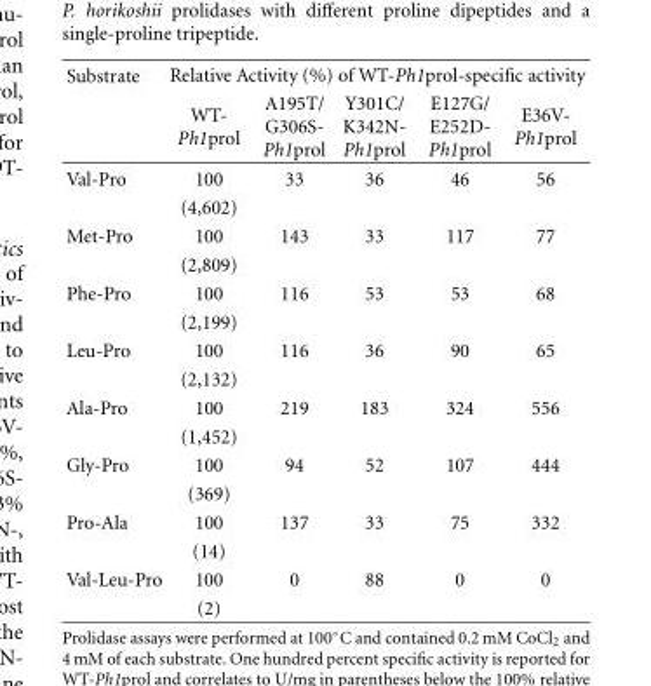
<table><thead><tr><td rowspan="2">Substrate</td><td colspan="5">Relative Activity (%) of WT-Ph1prol-specific activity</td></tr><tr><td>WT- Ph1prol</td><td>A195T/ G306S- Ph1prol</td><td>Y301C/ K342N- Ph1prol</td><td>E127G/ E252D- Ph1prol</td><td>E36V- Ph1prol</td></tr></thead><tbody><tr><td rowspan="2">Val-Pro</td><td>100</td><td>33</td><td>36</td><td>46</td><td>56</td></tr><tr><td>(4,602)</td><td></td><td></td><td></td><td></td></tr><tr><td rowspan="2">Met-Pro</td><td>100</td><td>143</td><td>33</td><td>117</td><td>77</td></tr><tr><td>(2,809)</td><td></td><td></td><td></td><td></td></tr><tr><td rowspan="2">Phe-Pro</td><td>100</td><td>116</td><td>53</td><td>53</td><td>68</td></tr><tr><td>(2,199)</td><td></td><td></td><td></td><td></td></tr><tr><td rowspan="2">Leu-Pro</td><td>100</td><td>116</td><td>36</td><td>90</td><td>65</td></tr><tr><td>(2,132)</td><td></td><td></td><td></td><td></td></tr><tr><td rowspan="2">Ala-Pro</td><td>100</td><td>219</td><td>183</td><td>324</td><td>556</td></tr><tr><td>(1,452)</td><td></td><td></td><td></td><td></td></tr><tr><td rowspan="2">Gly-Pro</td><td>100</td><td>94</td><td>52</td><td>107</td><td>444</td></tr><tr><td>(369)</td><td></td><td></td><td></td><td></td></tr><tr><td rowspan="2">Pro-Ala</td><td>100</td><td>137</td><td>33</td><td>75</td><td>332</td></tr><tr><td>(14)</td><td></td><td></td><td></td><td></td></tr><tr><td rowspan="2">Val-Leu-Pro</td><td>100</td><td>0</td><td>88</td><td>0</td><td>0</td></tr><tr><td>(2)</td><td></td><td></td><td></td><td></td></tr></tbody></table>